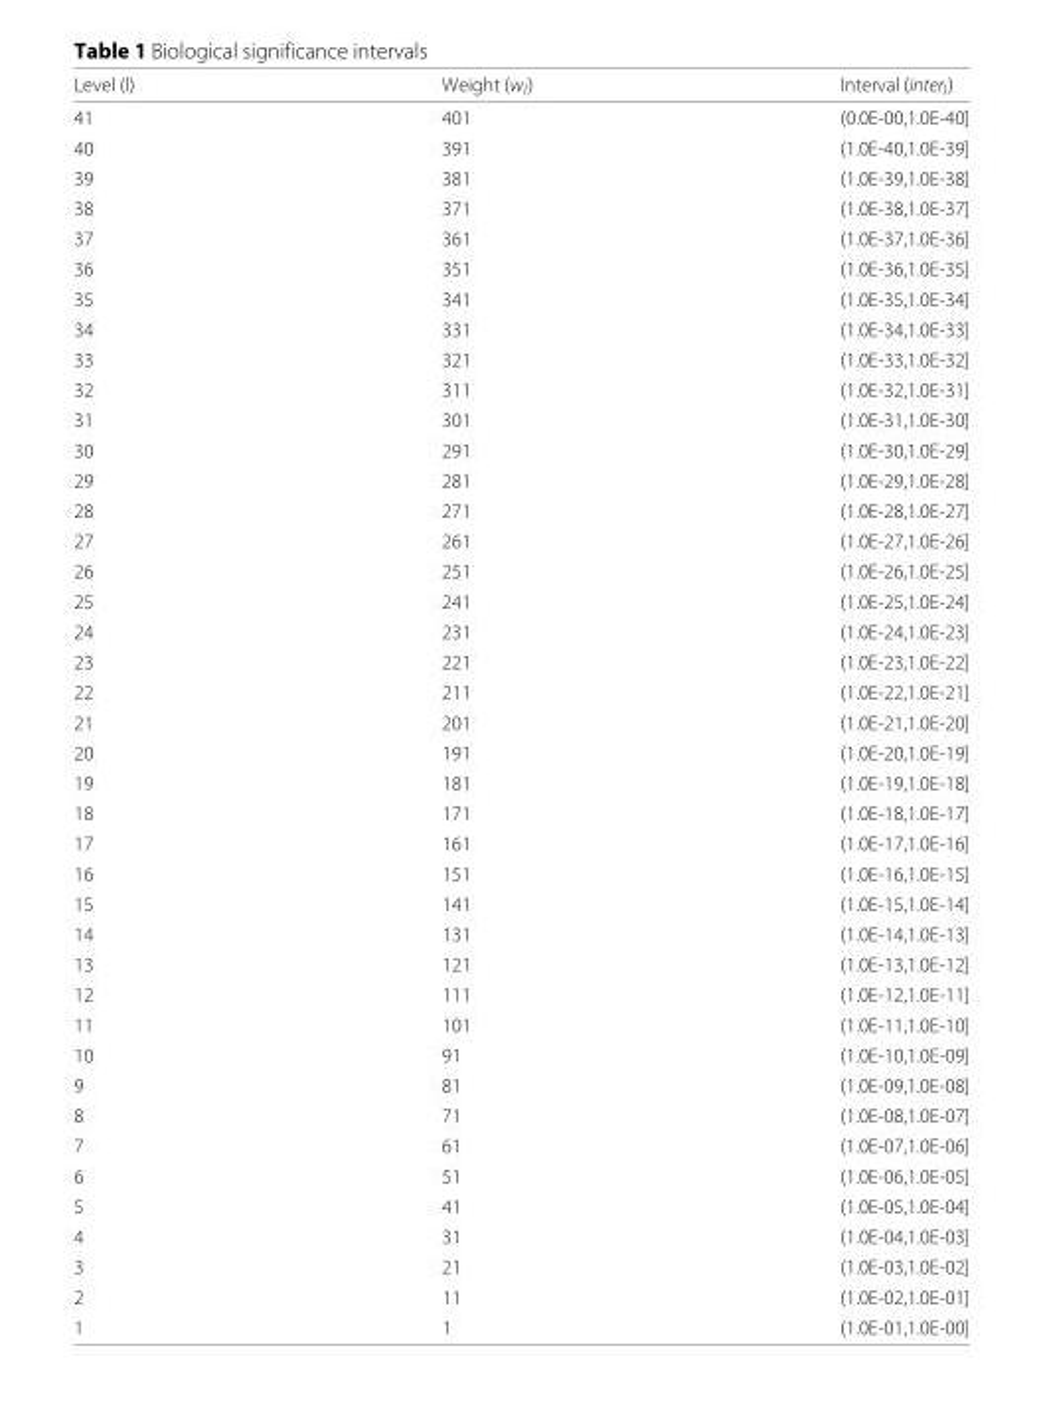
<table><thead><tr><td>Level (l)</td><td>Weight (w<sub>l</sub>)</td><td>Interval (inter<sub>l</sub>)</td></tr></thead><tbody><tr><td>41</td><td>401</td><td>(0.0E-00,1.0E-40]</td></tr><tr><td>40</td><td>391</td><td>(1.0E-40,1.0E-39]</td></tr><tr><td>39</td><td>381</td><td>(1.0E-39,1.0E-38]</td></tr><tr><td>38</td><td>371</td><td>(1.0E-38,1.0E-37]</td></tr><tr><td>37</td><td>361</td><td>(1.0E-37,1.0E-36]</td></tr><tr><td>36</td><td>351</td><td>(1.0E-36,1.0E-35]</td></tr><tr><td>35</td><td>341</td><td>(1.0E-35,1.0E-34]</td></tr><tr><td>34</td><td>331</td><td>(1.0E-34,1.0E-33]</td></tr><tr><td>33</td><td>321</td><td>(1.0E-33,1.0E-32]</td></tr><tr><td>32</td><td>311</td><td>(1.0E-32,1.0E-31]</td></tr><tr><td>31</td><td>301</td><td>(1.0E-31,1.0E-30]</td></tr><tr><td>30</td><td>291</td><td>(1.0E-30,1.0E-29]</td></tr><tr><td>29</td><td>281</td><td>(1.0E-29,1.0E-28]</td></tr><tr><td>28</td><td>271</td><td>(1.0E-28,1.0E-27]</td></tr><tr><td>27</td><td>261</td><td>(1.0E-27,1.0E-26]</td></tr><tr><td>26</td><td>251</td><td>(1.0E-26,1.0E-25]</td></tr><tr><td>25</td><td>241</td><td>(1.0E-25,1.0E-24]</td></tr><tr><td>24</td><td>231</td><td>(1.0E-24,1.0E-23]</td></tr><tr><td>23</td><td>221</td><td>(1.0E-23,1.0E-22]</td></tr><tr><td>22</td><td>211</td><td>(1.0E-22,1.0E-21]</td></tr><tr><td>21</td><td>201</td><td>(1.0E-21,1.0E-20]</td></tr><tr><td>20</td><td>191</td><td>(1.0E-20,1.0E-19]</td></tr><tr><td>19</td><td>181</td><td>(1.0E-19,1.0E-18]</td></tr><tr><td>18</td><td>171</td><td>(1.0E-18,1.0E-17]</td></tr><tr><td>17</td><td>161</td><td>(1.0E-17,1.0E-16]</td></tr><tr><td>16</td><td>151</td><td>(1.0E-16,1.0E-15]</td></tr><tr><td>15</td><td>141</td><td>(1.0E-15,1.0E-14]</td></tr><tr><td>14</td><td>131</td><td>(1.0E-14,1.0E-13]</td></tr><tr><td>13</td><td>121</td><td>(1.0E-13,1.0E-12]</td></tr><tr><td>12</td><td>111</td><td>(1.0E-12,1.0E-11]</td></tr><tr><td>11</td><td>101</td><td>(1.0E-11,1.0E-10]</td></tr><tr><td>10</td><td>91</td><td>(1.0E-10,1.0E-09]</td></tr><tr><td>9</td><td>81</td><td>(1.0E-09,1.0E-08]</td></tr><tr><td>8</td><td>71</td><td>(1.0E-08,1.0E-07]</td></tr><tr><td>7</td><td>61</td><td>(1.0E-07,1.0E-06]</td></tr><tr><td>6</td><td>51</td><td>(1.0E-06,1.0E-05]</td></tr><tr><td>5</td><td>41</td><td>(1.0E-05,1.0E-04]</td></tr><tr><td>4</td><td>31</td><td>(1.0E-04,1.0E-03]</td></tr><tr><td>3</td><td>21</td><td>(1.0E-03,1.0E-02]</td></tr><tr><td>2</td><td>11</td><td>(1.0E-02,1.0E-01]</td></tr><tr><td>1</td><td>1</td><td>(1.0E-01,1.0E-00]</td></tr></tbody></table>